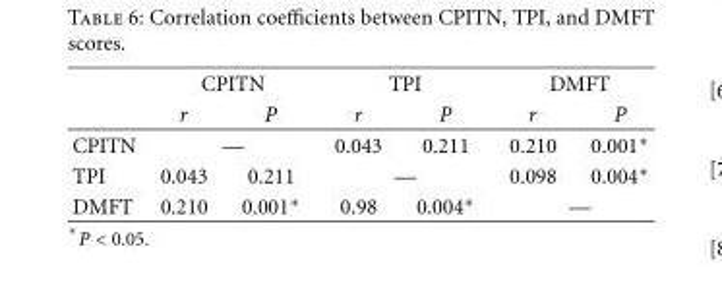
<table><thead><tr><td rowspan="2"></td><td colspan="2">CPITN</td><td colspan="2">TPI</td><td colspan="2">DMFT</td></tr><tr><td>r</td><td>P</td><td>r</td><td>P</td><td>r</td><td>P</td></tr></thead><tbody><tr><td>CPITN</td><td colspan="2">—</td><td>0.043</td><td>0.211</td><td>0.210</td><td>0.001∗</td></tr><tr><td>TPI</td><td>0.043</td><td>0.211</td><td colspan="2">—</td><td>0.098</td><td>0.004∗</td></tr><tr><td>DMFT</td><td>0.210</td><td>0.001∗</td><td>0.98</td><td>0.004∗</td><td colspan="2">—</td></tr></tbody></table>